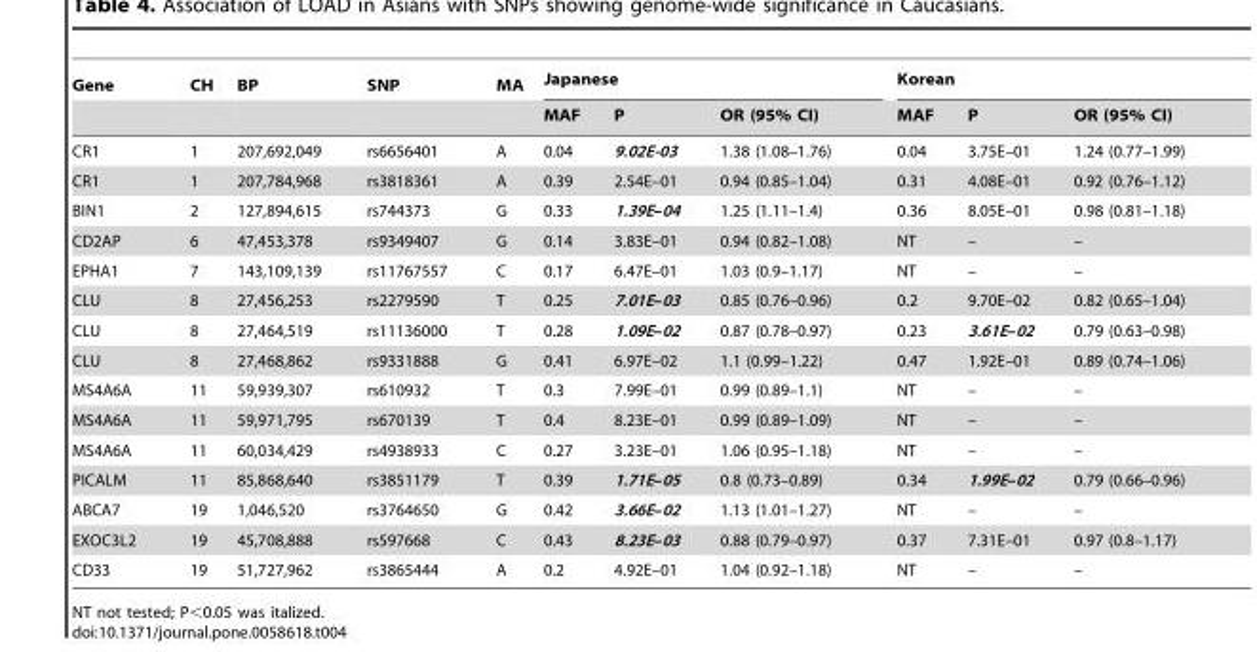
<table><thead><tr><td rowspan="2">Gene</td><td rowspan="2">CH</td><td rowspan="2">BP</td><td rowspan="2">SNP</td><td rowspan="2">MA</td><td colspan="3">Japanese</td><td colspan="3">Korean</td></tr><tr><td>MAF</td><td>P</td><td>OR (95% CI)</td><td>MAF</td><td>P</td><td>OR (95% CI)</td></tr></thead><tbody><tr><td>CR1</td><td>1</td><td>207,692,049</td><td>rs6656401</td><td>A</td><td>0.04</td><td>9.02E-03</td><td>1.38 (1.08–1.76)</td><td>0.04</td><td>3.75E–01</td><td>1.24 (0.77–1.99)</td></tr><tr><td>CR1</td><td>1</td><td>207,784,968</td><td>rs3818361</td><td>A</td><td>0.39</td><td>2.54E–01</td><td>0.94 (0.85–1.04)</td><td>0.31</td><td>4.08E–01</td><td>0.92 (0.76–1.12)</td></tr><tr><td>BIN1</td><td>2</td><td>127,894,615</td><td>rs744373</td><td>G</td><td>0.33</td><td>1.39E–04</td><td>1.25 (1.11–1.4)</td><td>0.36</td><td>8.05E–01</td><td>0.98 (0.81–1.18)</td></tr><tr><td>CD2AP</td><td>6</td><td>47,453,378</td><td>rs9349407</td><td>G</td><td>0.14</td><td>3.83E–01</td><td>0.94 (0.82–1.08)</td><td>NT</td><td>–</td><td>–</td></tr><tr><td>EPHA1</td><td>7</td><td>143,109,139</td><td>rs11767557</td><td>C</td><td>0.17</td><td>6.47E–01</td><td>1.03 (0.9–1.17)</td><td>NT</td><td>–</td><td>–</td></tr><tr><td>CLU</td><td>8</td><td>27,456,253</td><td>rs2279590</td><td>T</td><td>0.25</td><td>7.01E–03</td><td>0.85 (0.76–0.96)</td><td>0.2</td><td>9.70E–02</td><td>0.82 (0.65–1.04)</td></tr><tr><td>CLU</td><td>8</td><td>27,464,519</td><td>rs11136000</td><td>T</td><td>0.28</td><td>1.09E–02</td><td>0.87 (0.78–0.97)</td><td>0.23</td><td>3.61E–02</td><td>0.79 (0.63–0.98)</td></tr><tr><td>CLU</td><td>8</td><td>27,468,862</td><td>rs9331888</td><td>G</td><td>0.41</td><td>6.97E–02</td><td>1.1 (0.99–1.22)</td><td>0.47</td><td>1.92E–01</td><td>0.89 (0.74–1.06)</td></tr><tr><td>MS4A6A</td><td>11</td><td>59,939,307</td><td>rs610932</td><td>T</td><td>0.3</td><td>7.99E–01</td><td>0.99 (0.89–1.1)</td><td>NT</td><td>–</td><td>–</td></tr><tr><td>MS4A6A</td><td>11</td><td>59,971,795</td><td>rs670139</td><td>T</td><td>0.4</td><td>8.23E–01</td><td>0.99 (0.89–1.09)</td><td>NT</td><td>–</td><td>–</td></tr><tr><td>MS4A6A</td><td>11</td><td>60,034,429</td><td>rs4938933</td><td>C</td><td>0.27</td><td>3.23E–01</td><td>1.06 (0.95–1.18)</td><td>NT</td><td>–</td><td>–</td></tr><tr><td>PICALM</td><td>11</td><td>85,868,640</td><td>rs3851179</td><td>T</td><td>0.39</td><td>1.71E–05</td><td>0.8 (0.73–0.89)</td><td>0.34</td><td>1.99E–02</td><td>0.79 (0.66–0.96)</td></tr><tr><td>ABCA7</td><td>19</td><td>1,046,520</td><td>rs3764650</td><td>G</td><td>0.42</td><td>3.66E–02</td><td>1.13 (1.01–1.27)</td><td>NT</td><td>–</td><td>–</td></tr><tr><td>EXOC3L2</td><td>19</td><td>45,708,888</td><td>rs597668</td><td>C</td><td>0.43</td><td>8.23E–03</td><td>0.88 (0.79–0.97)</td><td>0.37</td><td>7.31E–01</td><td>0.97 (0.8–1.17)</td></tr><tr><td>CD33</td><td>19</td><td>51,727,962</td><td>rs3865444</td><td>A</td><td>0.2</td><td>4.92E–01</td><td>1.04 (0.92–1.18)</td><td>NT</td><td>–</td><td>–</td></tr></tbody></table>